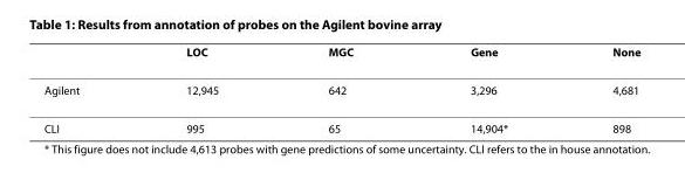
<table><thead><tr><td></td><td>LOC</td><td>MGC</td><td>Gene</td><td>None</td></tr></thead><tbody><tr><td>Agilent</td><td>12,945</td><td>642</td><td>3,296</td><td>4,681</td></tr><tr><td>CLI</td><td>995</td><td>65</td><td>14,904*</td><td>898</td></tr></tbody></table>